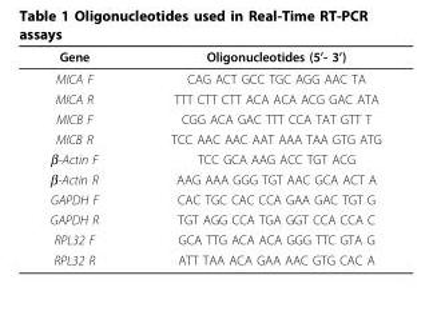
<table><thead><tr><td>Gene</td><td>Oligonucleotides (5’- 3’)</td></tr></thead><tbody><tr><td>MICA F</td><td>CAG ACT GCC TGC AGG AAC TA</td></tr><tr><td>MICA R</td><td>TTT CTT CTT ACA ACA ACG GAC ATA</td></tr><tr><td>MICB F</td><td>CGG ACA GAC TTT CCA TAT GTT T</td></tr><tr><td>MICB R</td><td>TCC AAC AAC AAT AAA TAA GTG ATG</td></tr><tr><td>β-Actin F</td><td>TCC GCA AAG ACC TGT ACG</td></tr><tr><td>β-Actin R</td><td>AAG AAA GGG TGT AAC GCA ACT A</td></tr><tr><td>GAPDH F</td><td>CAC TGC CAC CCA GAA GAC TGT G</td></tr><tr><td>GAPDH R</td><td>TGT AGG CCA TGA GGT CCA CCA C</td></tr><tr><td>RPL32 F</td><td>GCA TTG ACA ACA GGG TTC GTA G</td></tr><tr><td>RPL32 R</td><td>ATT TAA ACA GAA AAC GTG CAC A</td></tr></tbody></table>